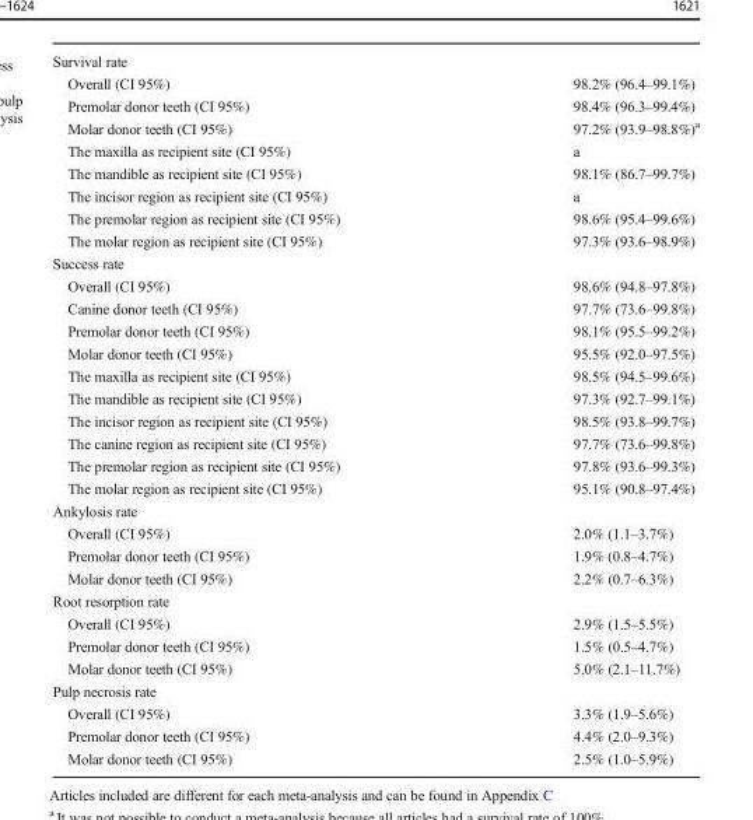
<table><tbody><tr><td colspan="2">Survival rate</td></tr><tr><td>Overall (CI 95%)</td><td>98.2% (96.4–99.1%)</td></tr><tr><td>Premolar donor teeth (CI 95%) Molar donor teeth (CI 95%)</td><td>98.4% (96.3–99.4%) 97.2% (93.9–98.8%)<sup>a</sup></td></tr><tr><td>The maxilla as recipient site (CI 95%)</td><td>a</td></tr><tr><td>The mandible as recipient site (CI 95%)</td><td>98.1% (86.7–99.7%)</td></tr><tr><td>The incisor region as recipient site (CI 95%)</td><td>a</td></tr><tr><td>The premolar region as recipient site (CI 95%)</td><td>98.6% (95.4–99.6%)</td></tr><tr><td>The molar region as recipient site (CI 95%)</td><td>97.3% (93.6–98.9%)</td></tr><tr><td colspan="2">Success rate</td></tr><tr><td>Overall (CI 95%)</td><td>98.6% (94.8–97.8%)</td></tr><tr><td>Canine donor teeth (CI 95%)</td><td>97.7% (73.6–99.8%)</td></tr><tr><td>Premolar donor teeth (CI 95%) Molar donor teeth (CI 95%)</td><td>98.1% (95.5–99.2%) 95.5% (92.0–97.5%)</td></tr><tr><td>The maxilla as recipient site (CI 95%)</td><td>98.5% (94.5–99.6%)</td></tr><tr><td>The mandible as recipient site (CI 95%)</td><td>97.3% (92.7–99.1%)</td></tr><tr><td>The incisor region as recipient site (CI 95%)</td><td>98.5% (93.8–99.7%)</td></tr><tr><td>The canine region as recipient site (CI 95%)</td><td>97.7% (73.6–99.8%)</td></tr><tr><td>The premolar region as recipient site (CI 95%)</td><td>97.8% (93.6–99.3%)</td></tr><tr><td>The molar region as recipient site (CI 95%)</td><td>95.1% (90.8–97.4%)</td></tr><tr><td colspan="2">Ankylosis rate</td></tr><tr><td>Overall (CI 95%)</td><td>2.0% (1.1–3.7%)</td></tr><tr><td>Premolar donor teeth (CI 95%) Molar donor teeth (CI 95%)</td><td>1.9% (0.8–4.7%) 2.2% (0.7–6.3%)</td></tr><tr><td colspan="2">Root resorption rate</td></tr><tr><td>Overall (CI 95%)</td><td>2.9% (1.5–5.5%)</td></tr><tr><td>Premolar donor teeth (CI 95%) Molar donor teeth (CI 95%)</td><td>1.5% (0.5–4.7%) 5.0% (2.1–11.7%)</td></tr><tr><td colspan="2">Pulp necrosis rate</td></tr><tr><td>Overall (CI 95%)</td><td>3.3% (1.9–5.6%)</td></tr><tr><td>Premolar donor teeth (CI 95%) Molar donor teeth (CI 95%)</td><td>4.4% (2.0–9.3%) 2.5% (1.0–5.9%)</td></tr></tbody></table>